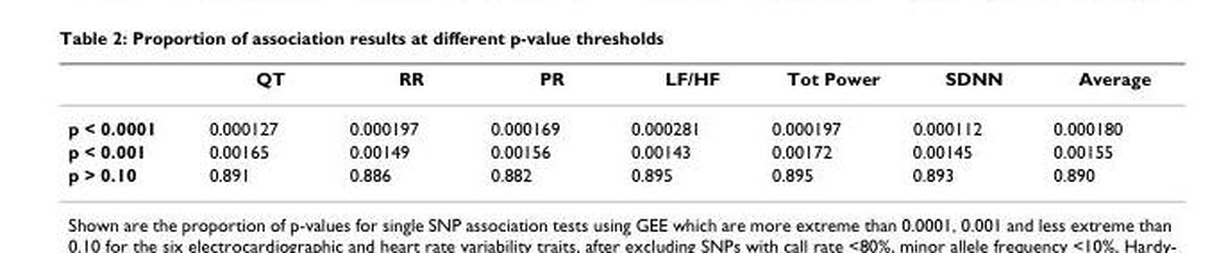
<table><thead><tr><td></td><td>QT</td><td>RR</td><td>PR</td><td>LF/HF</td><td>Tot Power</td><td>SDNN</td><td>Average</td></tr></thead><tbody><tr><td>p &lt; 0.0001</td><td>0.000127</td><td>0.000197</td><td>0.000169</td><td>0.000281</td><td>0.000197</td><td>0.000112</td><td>0.000180</td></tr><tr><td>p &lt; 0.001</td><td>0.00165</td><td>0.00149</td><td>0.00156</td><td>0.00143</td><td>0.00172</td><td>0.00145</td><td>0.00155</td></tr><tr><td>p &gt; 0.10</td><td>0.891</td><td>0.886</td><td>0.882</td><td>0.895</td><td>0.895</td><td>0.893</td><td>0.890</td></tr></tbody></table>